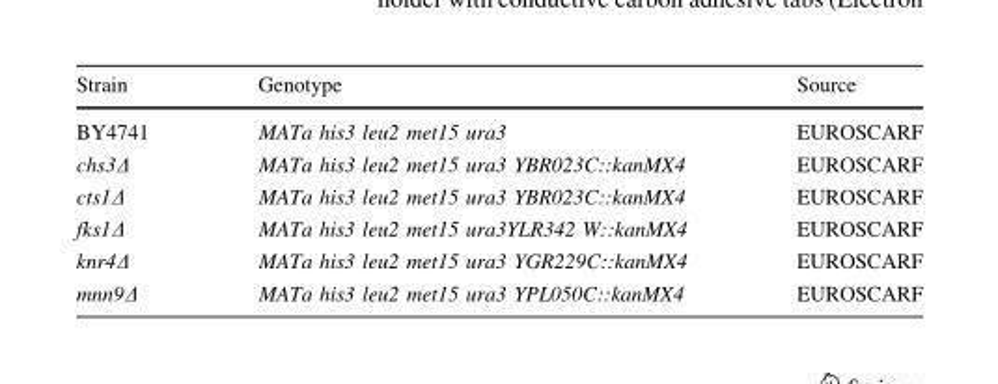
<table><thead><tr><td>Strain</td><td>Genotype</td><td>Source</td></tr></thead><tbody><tr><td>BY4741</td><td>MATa his3 leu2 met15 ura3</td><td>EUROSCARF</td></tr><tr><td>chs3Δ</td><td>MATa his3 leu2 met15 ura3 YBR023C::kanMX4</td><td>EUROSCARF</td></tr><tr><td>cts1Δ</td><td>MATa his3 leu2 met15 ura3 YBR023C::kanMX4</td><td>EUROSCARF</td></tr><tr><td>fks1Δ</td><td>MATa his3 leu2 met15 ura3YLR342 W::kanMX4</td><td>EUROSCARF</td></tr><tr><td>knr4Δ</td><td>MATa his3 leu2 met15 ura3 YGR229C::kanMX4</td><td>EUROSCARF</td></tr><tr><td>mnn9Δ</td><td>MATa his3 leu2 met15 ura3 YPL050C::kanMX4</td><td>EUROSCARF</td></tr></tbody></table>